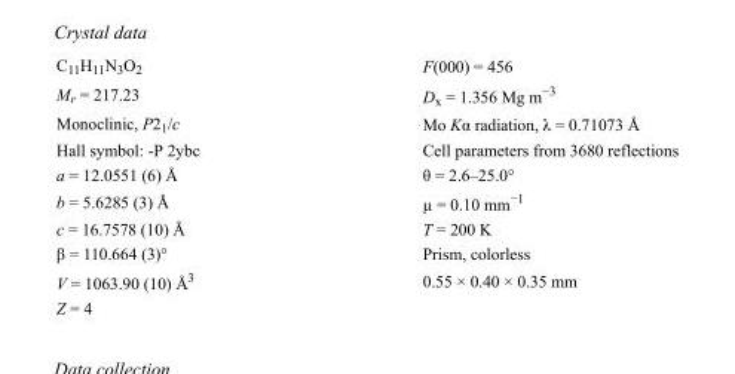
<table><tbody><tr><td>C<sub>11</sub>H<sub>11</sub>N<sub>3</sub>O<sub>2</sub></td><td>F(000) = 456</td></tr><tr><td>M<sub>r</sub> = 217.23</td><td>D<sub>x</sub> = 1.356 Mg m<sup>−3</sup></td></tr><tr><td>Monoclinic, P2<sub>1</sub>/c</td><td>Mo Kα radiation, λ = 0.71073 Å</td></tr><tr><td>Hall symbol: -P 2ybc</td><td>Cell parameters from 3680 reflections</td></tr><tr><td>a = 12.0551 (6) Å</td><td>θ = 2.6–25.0°</td></tr><tr><td>b = 5.6285 (3) Å</td><td>µ = 0.10 mm<sup>−1</sup></td></tr><tr><td>c = 16.7578 (10) Å</td><td>T = 200 K</td></tr><tr><td>β = 110.664 (3)°</td><td>Prism, colorless</td></tr><tr><td>V = 1063.90 (10) Å<sup>3</sup></td><td>0.55 × 0.40 × 0.35 mm</td></tr><tr><td>Z = 4</td><td></td></tr></tbody></table>